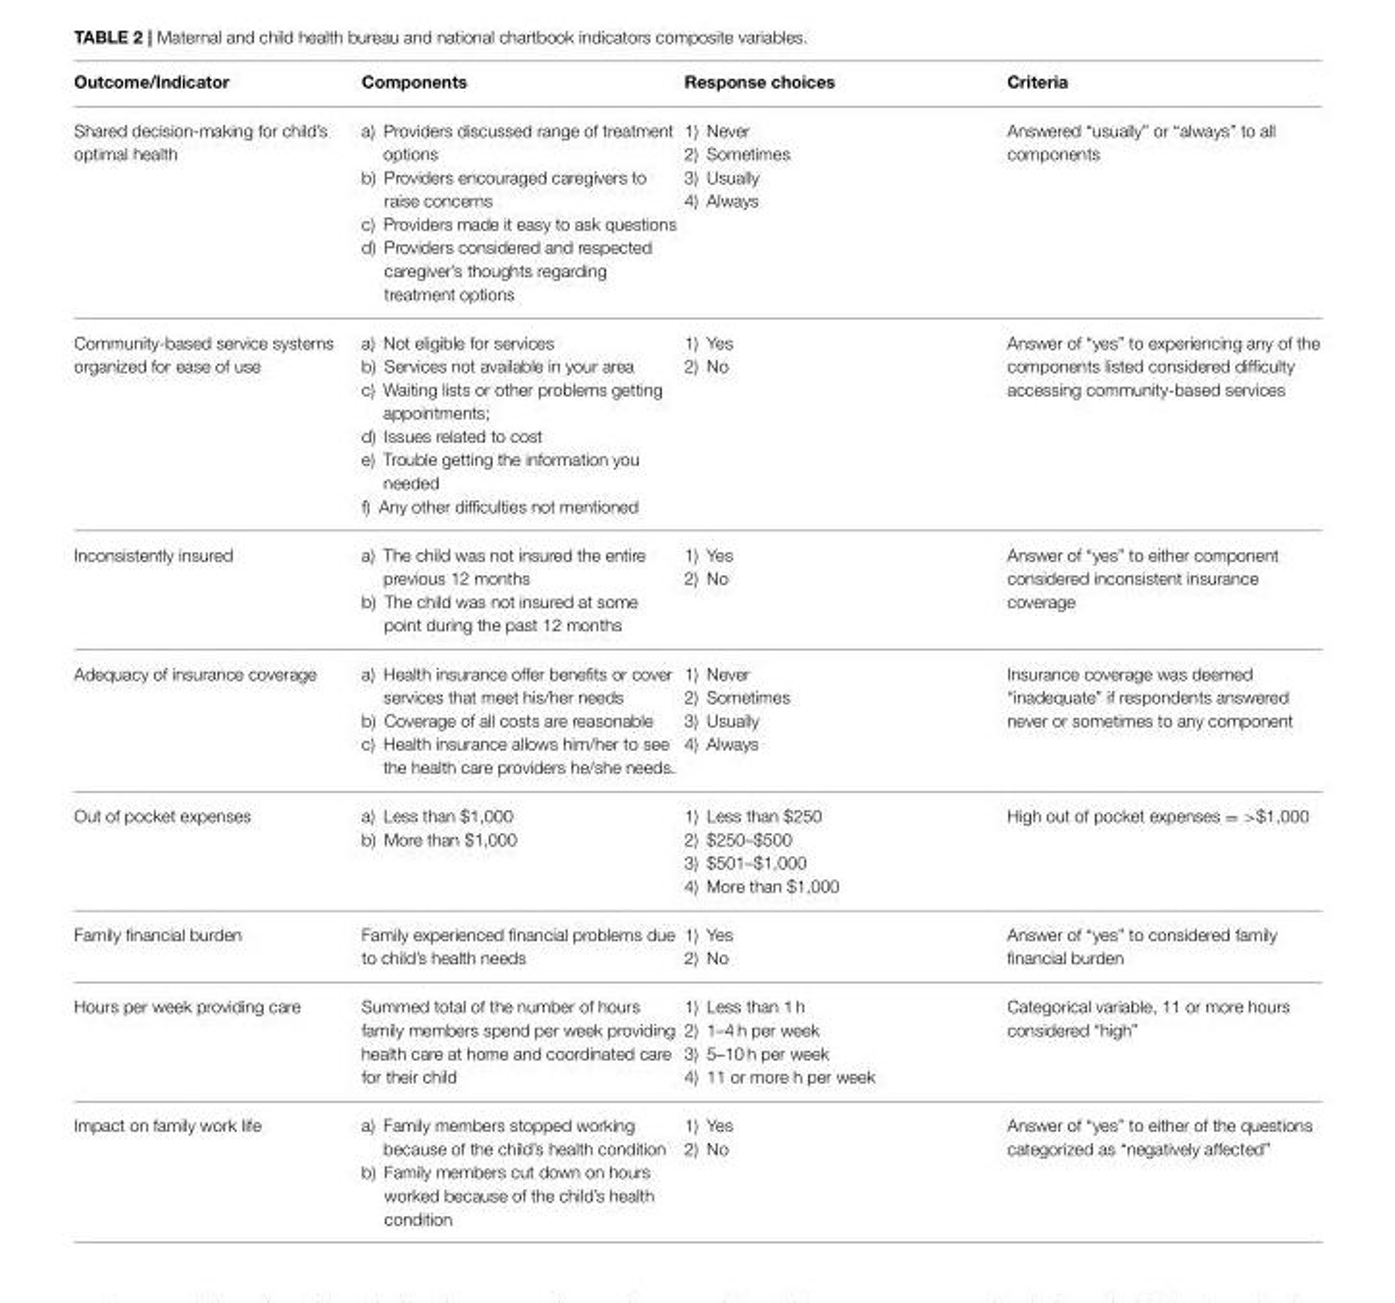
<table><thead><tr><td>Outcome/Indicator</td><td>Components</td><td>Response choices</td><td>Criteria</td></tr></thead><tbody><tr><td>Shared decision-making for child’s optimal health</td><td>a) Providers discussed range of treatment options b) Providers encouraged caregivers to raise concerns c) Providers made it easy to ask questions d) Providers considered and respected caregiver’s thoughts regarding treatment options</td><td>1) Never 2) Sometimes 3) Usually 4) Always</td><td>Answered “usually” or “always” to all components</td></tr><tr><td>Community-based service systems organized for ease of use</td><td>a) Not eligible for services b) Services not available in your area c) Waiting lists or other problems getting appointments; d) Issues related to cost e) Trouble getting the information you needed f) Any other difficulties not mentioned</td><td>1) Yes 2) No</td><td>Answer of “yes” to experiencing any of the components listed considered difficulty accessing community-based services</td></tr><tr><td>Inconsistently insured</td><td>a) The child was not insured the entire previous 12 months b) The child was not insured at some point during the past 12 months</td><td>1) Yes 2) No</td><td>Answer of “yes” to either component considered inconsistent insurance coverage</td></tr><tr><td>Adequacy of insurance coverage</td><td>a) Health insurance offer benefits or cover services that meet his/her needs b) Coverage of all costs are reasonable c) Health insurance allows him/her to see the health care providers he/she needs.</td><td>1) Never 2) Sometimes 3) Usually 4) Always</td><td>Insurance coverage was deemed “inadequate” if respondents answered never or sometimes to any component</td></tr><tr><td>Out of pocket expenses</td><td>a) Less than $1,000 b) More than $1,000</td><td>1) Less than $250 2) $250–$500 3) $501–$1,000 4) More than $1,000</td><td>High out of pocket expenses = &gt;$1,000</td></tr><tr><td>Family financial burden</td><td>Family experienced financial problems due to child’s health needs</td><td>1) Yes 2) No</td><td>Answer of “yes” to considered family financial burden</td></tr><tr><td>Hours per week providing care</td><td>Summed total of the number of hours family members spend per week providing health care at home and coordinated care for their child</td><td>1) Less than 1 h 2) 1–4 h per week 3) 5–10 h per week 4) 11 or more h per week</td><td>Categorical variable, 11 or more hours considered “high”</td></tr><tr><td>Impact on family work life</td><td>a) Family members stopped working because of the child’s health condition b) Family members cut down on hours worked because of the child’s health condition</td><td>1) Yes 2) No</td><td>Answer of “yes” to either of the questions categorized as “negatively affected”</td></tr></tbody></table>